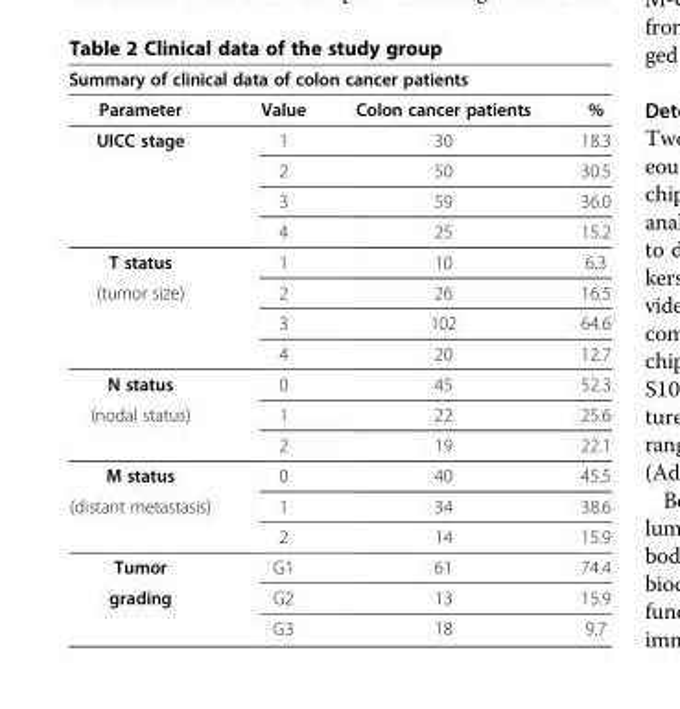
<table><thead><tr><td colspan="4">Summary of clinical data of colon cancer patients</td></tr><tr><td>Parameter</td><td>Value</td><td>Colon cancer patients</td><td>%</td></tr></thead><tbody><tr><td rowspan="4">UICC stage</td><td>1</td><td>30</td><td>18.3</td></tr><tr><td>2</td><td>50</td><td>30.5</td></tr><tr><td>3</td><td>59</td><td>36.0</td></tr><tr><td>4</td><td>25</td><td>15.2</td></tr><tr><td>T status</td><td>1</td><td>10</td><td>6.3</td></tr><tr><td rowspan="3">(tumor size)</td><td>2</td><td>26</td><td>16.5</td></tr><tr><td>3</td><td>102</td><td>64.6</td></tr><tr><td>4</td><td>20</td><td>12.7</td></tr><tr><td>N status</td><td>0</td><td>45</td><td>52.3</td></tr><tr><td rowspan="2">(nodal status)</td><td>1</td><td>22</td><td>25.6</td></tr><tr><td>2</td><td>19</td><td>22.1</td></tr><tr><td>M status</td><td>0</td><td>40</td><td>45.5</td></tr><tr><td rowspan="2">(distant metastasis)</td><td>1</td><td>34</td><td>38.6</td></tr><tr><td>2</td><td>14</td><td>15.9</td></tr><tr><td>Tumor</td><td>G1</td><td>61</td><td>74.4</td></tr><tr><td rowspan="2">grading</td><td>G2</td><td>13</td><td>15.9</td></tr><tr><td>G3</td><td>18</td><td>9.7</td></tr></tbody></table>